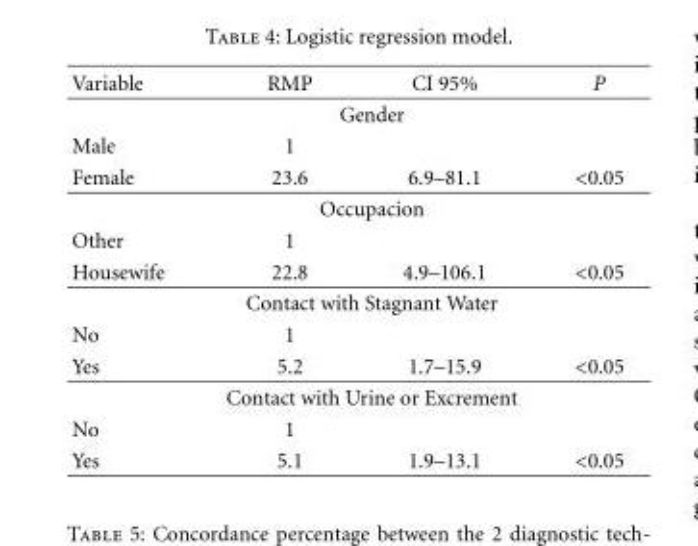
<table><thead><tr><td>Variable</td><td>RMP</td><td>CI 95%</td><td>P</td></tr></thead><tbody><tr><td colspan="4">Gender</td></tr><tr><td>Male</td><td>1</td><td></td><td></td></tr><tr><td>Female</td><td>23.6</td><td>6.9–81.1</td><td>&lt;0.05</td></tr><tr><td colspan="4">Occupacion</td></tr><tr><td>Other</td><td>1</td><td></td><td></td></tr><tr><td>Housewife</td><td>22.8</td><td>4.9–106.1</td><td>&lt;0.05</td></tr><tr><td colspan="4">Contact with Stagnant Water</td></tr><tr><td>No</td><td>1</td><td></td><td></td></tr><tr><td>Yes</td><td>5.2</td><td>1.7–15.9</td><td>&lt;0.05</td></tr><tr><td colspan="4">Contact with Urine or Excrement</td></tr><tr><td>No</td><td>1</td><td></td><td></td></tr><tr><td>Yes</td><td>5.1</td><td>1.9–13.1</td><td>&lt;0.05</td></tr></tbody></table>